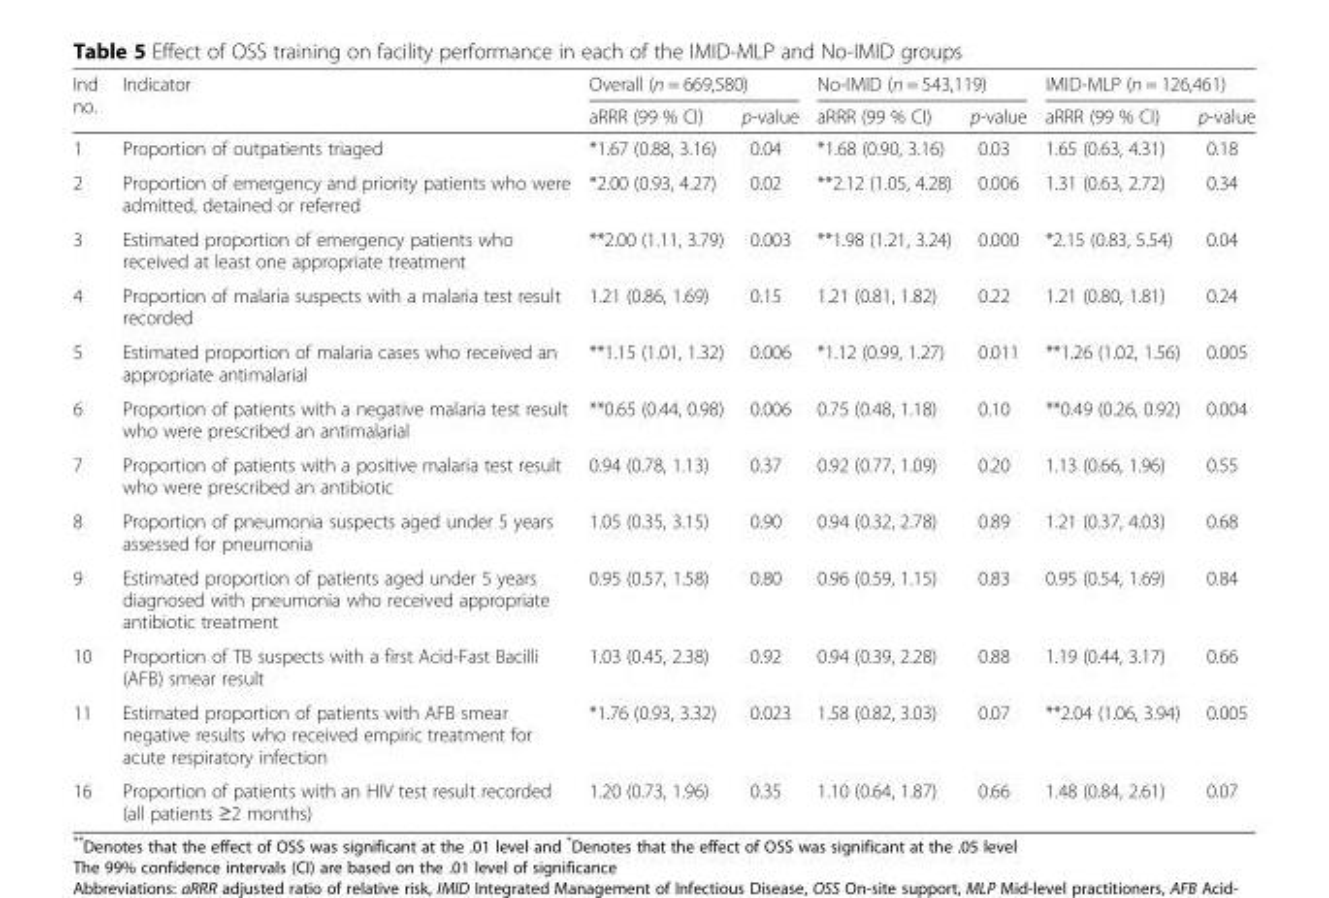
<table><thead><tr><td rowspan="2">Ind no.</td><td rowspan="2">Indicator</td><td colspan="2">Overall (n = 669,580)</td><td colspan="2">No-IMID (n = 543,119)</td><td colspan="2">IMID-MLP (n = 126,461)</td></tr><tr><td>aRRR (99 % CI)</td><td>p-value</td><td>aRRR (99 % CI)</td><td>p-value</td><td>aRRR (99 % CI)</td><td>p-value</td></tr></thead><tbody><tr><td>1</td><td>Proportion of outpatients triaged</td><td>*1.67 (0.88, 3.16)</td><td>0.04</td><td>*1.68 (0.90, 3.16)</td><td>0.03</td><td>1.65 (0.63, 4.31)</td><td>0.18</td></tr><tr><td>2</td><td>Proportion of emergency and priority patients who were admitted, detained or referred</td><td>*2.00 (0.93, 4.27)</td><td>0.02</td><td>**2.12 (1.05, 4.28)</td><td>0.006</td><td>1.31 (0.63, 2.72)</td><td>0.34</td></tr><tr><td>3</td><td>Estimated proportion of emergency patients who received at least one appropriate treatment</td><td>**2.00 (1.11, 3.79)</td><td>0.003</td><td>**1.98 (1.21, 3.24)</td><td>0.000</td><td>*2.15 (0.83, 5.54)</td><td>0.04</td></tr><tr><td>4</td><td>Proportion of malaria suspects with a malaria test result recorded</td><td>1.21 (0.86, 1.69)</td><td>0.15</td><td>1.21 (0.81, 1.82)</td><td>0.22</td><td>1.21 (0.80, 1.81)</td><td>0.24</td></tr><tr><td>5</td><td>Estimated proportion of malaria cases who received an appropriate antimalarial</td><td>**1.15 (1.01, 1.32)</td><td>0.006</td><td>*1.12 (0.99, 1.27)</td><td>0.011</td><td>**1.26 (1.02, 1.56)</td><td>0.005</td></tr><tr><td>6</td><td>Proportion of patients with a negative malaria test result who were prescribed an antimalarial</td><td>**0.65 (0.44, 0.98)</td><td>0.006</td><td>0.75 (0.48, 1.18)</td><td>0.10</td><td>**0.49 (0.26, 0.92)</td><td>0.004</td></tr><tr><td>7</td><td>Proportion of patients with a positive malaria test result who were prescribed an antibiotic</td><td>0.94 (0.78, 1.13)</td><td>0.37</td><td>0.92 (0.77, 1.09)</td><td>0.20</td><td>1.13 (0.66, 1.96)</td><td>0.55</td></tr><tr><td>8</td><td>Proportion of pneumonia suspects aged under 5 years assessed for pneumonia</td><td>1.05 (0.35, 3.15)</td><td>0.90</td><td>0.94 (0.32, 2.78)</td><td>0.89</td><td>1.21 (0.37, 4.03)</td><td>0.68</td></tr><tr><td>9</td><td>Estimated proportion of patients aged under 5 years diagnosed with pneumonia who received appropriate antibiotic treatment</td><td>0.95 (0.57, 1.58)</td><td>0.80</td><td>0.96 (0.59, 1.15)</td><td>0.83</td><td>0.95 (0.54, 1.69)</td><td>0.84</td></tr><tr><td>10</td><td>Proportion of TB suspects with a first Acid-Fast Bacilli (AFB) smear result</td><td>1.03 (0.45, 2.38)</td><td>0.92</td><td>0.94 (0.39, 2.28)</td><td>0.88</td><td>1.19 (0.44, 3.17)</td><td>0.66</td></tr><tr><td>11</td><td>Estimated proportion of patients with AFB smear negative results who received empiric treatment for acute respiratory infection</td><td>*1.76 (0.93, 3.32)</td><td>0.023</td><td>1.58 (0.82, 3.03)</td><td>0.07</td><td>**2.04 (1.06, 3.94)</td><td>0.005</td></tr><tr><td>16</td><td>Proportion of patients with an HIV test result recorded (all patients ≥2 months)</td><td>1.20 (0.73, 1.96)</td><td>0.35</td><td>1.10 (0.64, 1.87)</td><td>0.66</td><td>1.48 (0.84, 2.61)</td><td>0.07</td></tr></tbody></table>